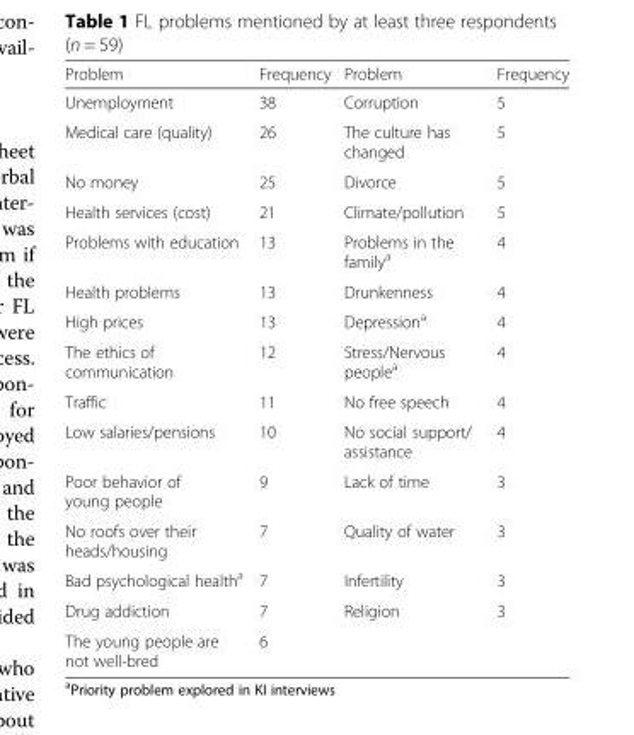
<table><thead><tr><td>Problem</td><td>Frequency</td><td>Problem</td><td>Frequency</td></tr></thead><tbody><tr><td>Unemployment</td><td>38</td><td>Corruption</td><td>5</td></tr><tr><td>Medical care (quality)</td><td>26</td><td>The culture has changed</td><td>5</td></tr><tr><td>No money</td><td>25</td><td>Divorce</td><td>5</td></tr><tr><td>Health services (cost)</td><td>21</td><td>Climate/pollution</td><td>5</td></tr><tr><td>Problems with education</td><td>13</td><td>Problems in the family<sup>a</sup></td><td>4</td></tr><tr><td>Health problems</td><td>13</td><td>Drunkenness</td><td>4</td></tr><tr><td>High prices</td><td>13</td><td>Depression<sup>a</sup></td><td>4</td></tr><tr><td>The ethics of communication</td><td>12</td><td>Stress/Nervous people<sup>a</sup></td><td>4</td></tr><tr><td>Traffic</td><td>11</td><td>No free speech</td><td>4</td></tr><tr><td>Low salaries/pensions</td><td>10</td><td>No social support/ assistance</td><td>4</td></tr><tr><td>Poor behavior of young people</td><td>9</td><td>Lack of time</td><td>3</td></tr><tr><td>No roofs over their heads/housing</td><td>7</td><td>Quality of water</td><td>3</td></tr><tr><td>Bad psychological health<sup>a</sup></td><td>7</td><td>Infertility</td><td>3</td></tr><tr><td>Drug addiction</td><td>7</td><td>Religion</td><td>3</td></tr><tr><td>The young people are not well-bred</td><td>6</td><td></td><td></td></tr></tbody></table>